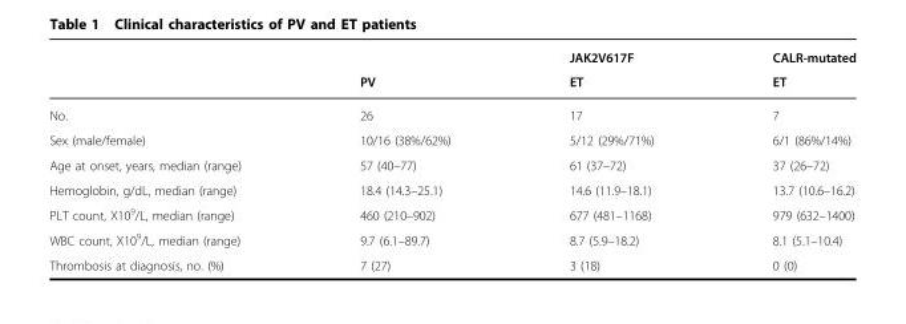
<table><thead><tr><td rowspan="2"></td><td rowspan="2">PV</td><td rowspan="2">JAK2V617F ET</td><td rowspan="2">CALR-mutated ET</td></tr><tr></tr></thead><tbody><tr><td>No.</td><td>26</td><td>17</td><td>7</td></tr><tr><td>Sex (male/female)</td><td>10/16 (38%/62%)</td><td>5/12 (29%/71%)</td><td>6/1 (86%/14%)</td></tr><tr><td>Age at onset, years, median (range)</td><td>57 (40–77)</td><td>61 (37–72)</td><td>37 (26–72)</td></tr><tr><td>Hemoglobin, g/dL, median (range)</td><td>18.4 (14.3–25.1)</td><td>14.6 (11.9–18.1)</td><td>13.7 (10.6–16.2)</td></tr><tr><td>PLT count, X10<sup>9</sup>/L, median (range)</td><td>460 (210–902)</td><td>677 (481–1168)</td><td>979 (632–1400)</td></tr><tr><td>WBC count, X10<sup>9</sup>/L, median (range)</td><td>9.7 (6.1–89.7)</td><td>8.7 (5.9–18.2)</td><td>8.1 (5.1–10.4)</td></tr><tr><td>Thrombosis at diagnosis, no. (%)</td><td>7 (27)</td><td>3 (18)</td><td>0 (0)</td></tr></tbody></table>